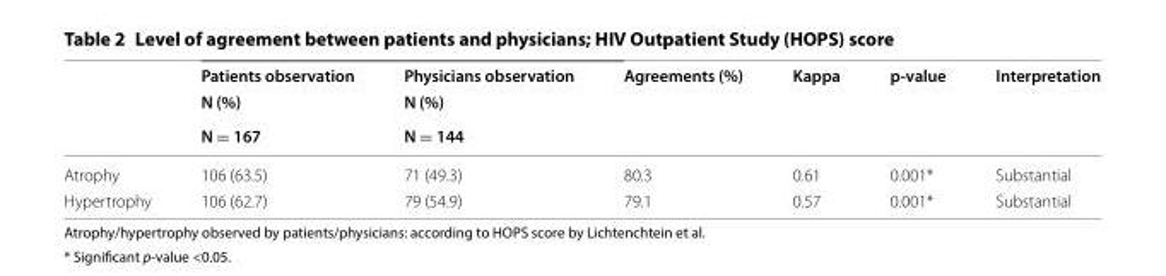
<table><thead><tr><td rowspan="3"></td><td rowspan="3">Patients observation N (%) N = 167</td><td rowspan="3">Physicians observation N (%) N = 144</td><td rowspan="3">Agreements (%)</td><td rowspan="3">Kappa</td><td rowspan="3">p-value</td><td rowspan="3">Interpretation</td></tr><tr></tr><tr></tr></thead><tbody><tr><td>Atrophy</td><td>106 (63.5)</td><td>71 (49.3)</td><td>80.3</td><td>0.61</td><td>0.001*</td><td>Substantial</td></tr><tr><td>Hypertrophy</td><td>106 (62.7)</td><td>79 (54.9)</td><td>79.1</td><td>0.57</td><td>0.001*</td><td>Substantial</td></tr></tbody></table>